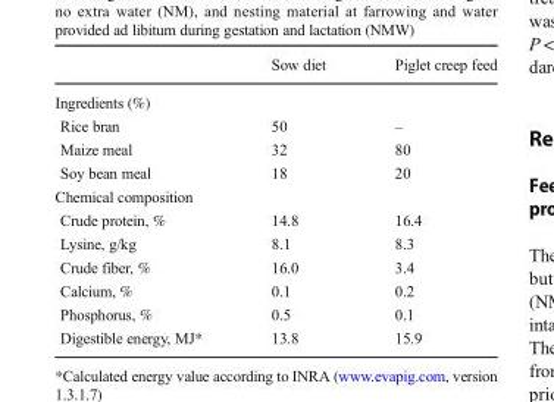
<table><thead><tr><td></td><td>Sow diet</td><td>Piglet creep feed</td></tr></thead><tbody><tr><td colspan="3">Ingredients (%)</td></tr><tr><td>Rice bran</td><td>50</td><td>–</td></tr><tr><td>Maize meal</td><td>32</td><td>80</td></tr><tr><td>Soy bean meal</td><td>18</td><td>20</td></tr><tr><td colspan="3">Chemical composition</td></tr><tr><td>Crude protein, %</td><td>14.8</td><td>16.4</td></tr><tr><td>Lysine, g/kg</td><td>8.1</td><td>8.3</td></tr><tr><td>Crude fiber, %</td><td>16.0</td><td>3.4</td></tr><tr><td>Calcium, %</td><td>0.1</td><td>0.2</td></tr><tr><td>Phosphorus, %</td><td>0.5</td><td>0.1</td></tr><tr><td>Digestible energy, MJ*</td><td>13.8</td><td>15.9</td></tr></tbody></table>